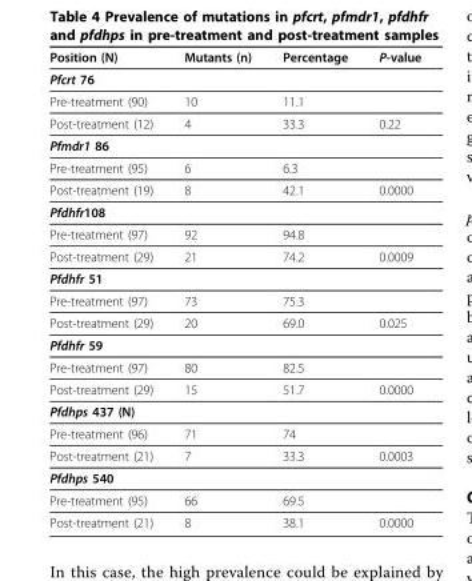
<table><thead><tr><td>Position (N)</td><td>Mutants (n)</td><td>Percentage</td><td>P-value</td></tr></thead><tbody><tr><td colspan="4">Pfcrt 76</td></tr><tr><td>Pre-treatment (90)</td><td>10</td><td>11.1</td><td></td></tr><tr><td>Post-treatment (12)</td><td>4</td><td>33.3</td><td>0.22</td></tr><tr><td colspan="4">Pfmdr1 86</td></tr><tr><td>Pre-treatment (95)</td><td>6</td><td>6.3</td><td></td></tr><tr><td>Post-treatment (19)</td><td>8</td><td>42.1</td><td>0.0000</td></tr><tr><td colspan="4">Pfdhfr108</td></tr><tr><td>Pre-treatment (97)</td><td>92</td><td>94.8</td><td></td></tr><tr><td>Post-treatment (29)</td><td>21</td><td>74.2</td><td>0.0009</td></tr><tr><td colspan="4">Pfdhfr 51</td></tr><tr><td>Pre-treatment (97)</td><td>73</td><td>75.3</td><td></td></tr><tr><td>Post-treatment (29)</td><td>20</td><td>69.0</td><td>0.025</td></tr><tr><td colspan="4">Pfdhfr 59</td></tr><tr><td>Pre-treatment (97)</td><td>80</td><td>82.5</td><td></td></tr><tr><td>Post-treatment (29)</td><td>15</td><td>51.7</td><td>0.0000</td></tr><tr><td colspan="4">Pfdhps 437 (N)</td></tr><tr><td>Pre-treatment (96)</td><td>71</td><td>74</td><td></td></tr><tr><td>Post-treatment (21)</td><td>7</td><td>33.3</td><td>0.0003</td></tr><tr><td colspan="4">Pfdhps 540</td></tr><tr><td>Pre-treatment (95)</td><td>66</td><td>69.5</td><td></td></tr><tr><td>Post-treatment (21)</td><td>8</td><td>38.1</td><td>0.0000</td></tr></tbody></table>